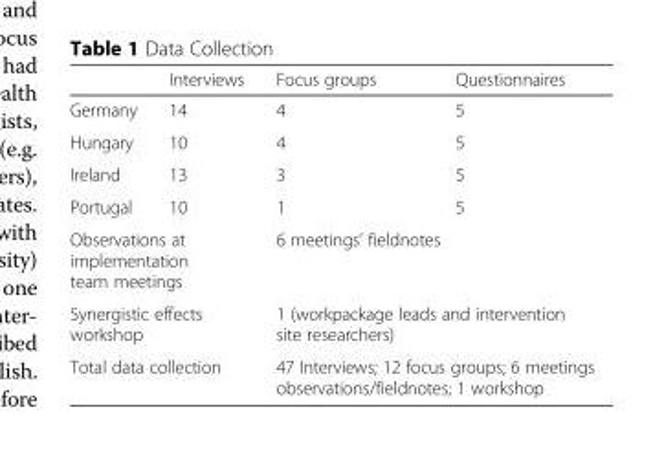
<table><thead><tr><td></td><td>Interviews</td><td>Focus groups</td><td>Questionnaires</td></tr></thead><tbody><tr><td>Germany</td><td>14</td><td>4</td><td>5</td></tr><tr><td>Hungary</td><td>10</td><td>4</td><td>5</td></tr><tr><td>Ireland</td><td>13</td><td>3</td><td>5</td></tr><tr><td>Portugal</td><td>10</td><td>1</td><td>5</td></tr><tr><td colspan="2">Observations at implementation team meetings</td><td colspan="2">6 meetings’ fieldnotes</td></tr><tr><td colspan="2">Synergistic effects workshop</td><td colspan="2">1 (workpackage leads and intervention site researchers)</td></tr><tr><td colspan="2">Total data collection</td><td colspan="2">47 Interviews; 12 focus groups; 6 meetings observations/fieldnotes; 1 workshop</td></tr></tbody></table>